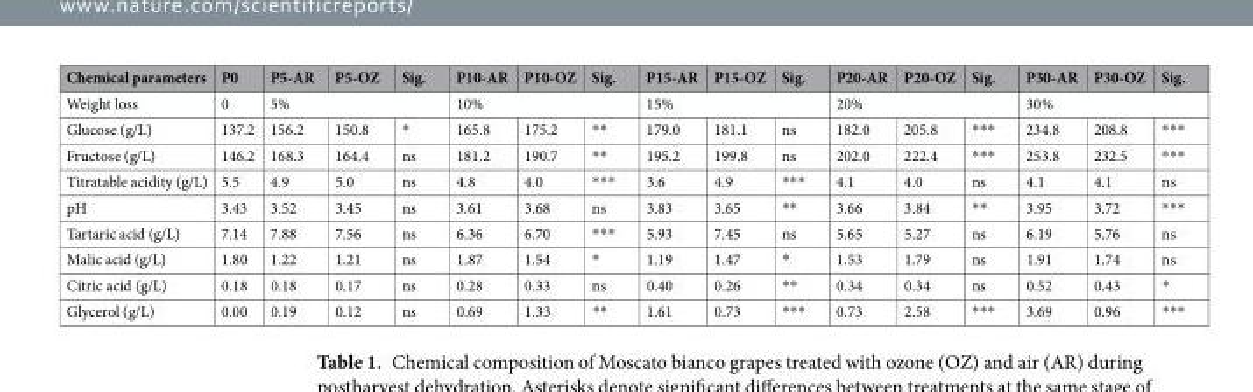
<table><thead><tr><td>Chemical parameters</td><td>P0</td><td>P5-AR</td><td>P5-OZ</td><td>Sig.</td><td>P10-AR</td><td>P10-OZ</td><td>Sig.</td><td>P15-AR</td><td>P15-OZ</td><td>Sig.</td><td>P20-AR</td><td>P20-OZ</td><td>Sig.</td><td>P30-AR</td><td>P30-OZ</td><td>Sig.</td></tr></thead><tbody><tr><td>Weight loss</td><td>0</td><td colspan="3">5%</td><td colspan="3">10%</td><td colspan="3">15%</td><td colspan="3">20%</td><td colspan="3">30%</td></tr><tr><td>Glucose (g/L)</td><td>137.2</td><td>156.2</td><td>150.8</td><td>*</td><td>165.8</td><td>175.2</td><td>**</td><td>179.0</td><td>181.1</td><td>ns</td><td>182.0</td><td>205.8</td><td>***</td><td>234.8</td><td>208.8</td><td>***</td></tr><tr><td>Fructose (g/L)</td><td>146.2</td><td>168.3</td><td>164.4</td><td>ns</td><td>181.2</td><td>190.7</td><td>**</td><td>195.2</td><td>199.8</td><td>ns</td><td>202.0</td><td>222.4</td><td>***</td><td>253.8</td><td>232.5</td><td>***</td></tr><tr><td>Titratable acidity (g/L)</td><td>5.5</td><td>4.9</td><td>5.0</td><td>ns</td><td>4.8</td><td>4.0</td><td>***</td><td>3.6</td><td>4.9</td><td>***</td><td>4.1</td><td>4.0</td><td>ns</td><td>4.1</td><td>4.1</td><td>ns</td></tr><tr><td>pH</td><td>3.43</td><td>3.52</td><td>3.45</td><td>ns</td><td>3.61</td><td>3.68</td><td>ns</td><td>3.83</td><td>3.65</td><td>**</td><td>3.66</td><td>3.84</td><td>**</td><td>3.95</td><td>3.72</td><td>***</td></tr><tr><td>Tartaric acid (g/L)</td><td>7.14</td><td>7.88</td><td>7.56</td><td>ns</td><td>6.36</td><td>6.70</td><td>***</td><td>5.93</td><td>7.45</td><td>ns</td><td>5.65</td><td>5.27</td><td>ns</td><td>6.19</td><td>5.76</td><td>ns</td></tr><tr><td>Malic acid (g/L)</td><td>1.80</td><td>1.22</td><td>1.21</td><td>ns</td><td>1.87</td><td>1.54</td><td>*</td><td>1.19</td><td>1.47</td><td>*</td><td>1.53</td><td>1.79</td><td>ns</td><td>1.91</td><td>1.74</td><td>ns</td></tr><tr><td>Citric acid (g/L)</td><td>0.18</td><td>0.18</td><td>0.17</td><td>ns</td><td>0.28</td><td>0.33</td><td>ns</td><td>0.40</td><td>0.26</td><td>**</td><td>0.34</td><td>0.34</td><td>ns</td><td>0.52</td><td>0.43</td><td>*</td></tr><tr><td>Glycerol (g/L)</td><td>0.00</td><td>0.19</td><td>0.12</td><td>ns</td><td>0.69</td><td>1.33</td><td>**</td><td>1.61</td><td>0.73</td><td>***</td><td>0.73</td><td>2.58</td><td>***</td><td>3.69</td><td>0.96</td><td>***</td></tr></tbody></table>